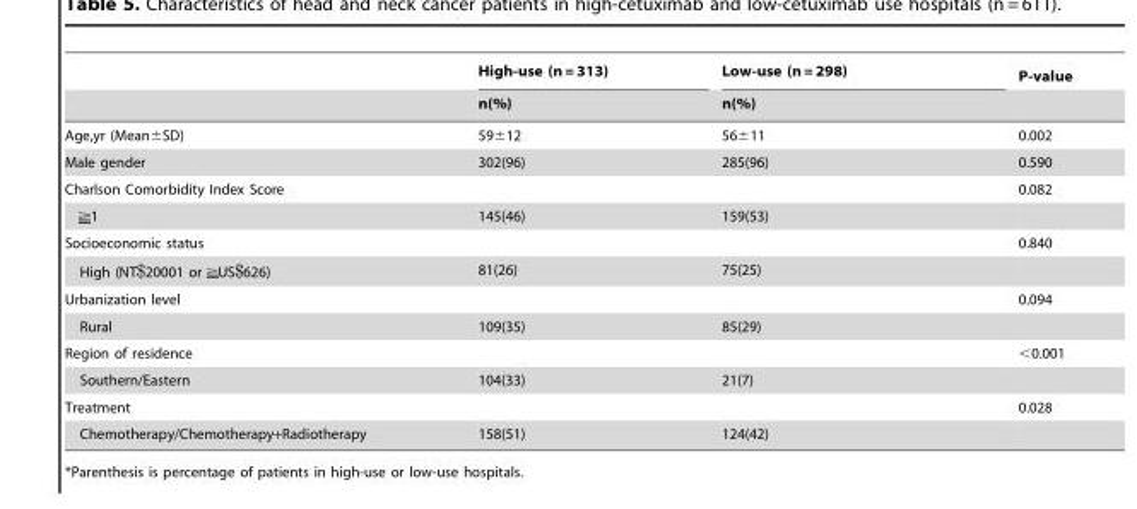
<table><thead><tr><td rowspan="2"></td><td rowspan="2">High-use (n = 313) n(%)</td><td rowspan="2">Low-use (n = 298) n(%)</td><td rowspan="2">P-value</td></tr><tr></tr></thead><tbody><tr><td>Age,yr (Mean±SD)</td><td>59±12</td><td>56±11</td><td>0.002</td></tr><tr><td>Male gender</td><td>302(96)</td><td>285(96)</td><td>0.590</td></tr><tr><td>Charlson Comorbidity Index Score</td><td></td><td></td><td>0.082</td></tr><tr><td>1</td><td>145(46)</td><td>159(53)</td><td></td></tr><tr><td>Socioeconomic status</td><td></td><td></td><td>0.840</td></tr><tr><td>High (NT$20001 or US$626)</td><td>81(26)</td><td>75(25)</td><td></td></tr><tr><td>Urbanization level</td><td></td><td></td><td>0.094</td></tr><tr><td>Rural</td><td>109(35)</td><td>85(29)</td><td></td></tr><tr><td>Region of residence</td><td></td><td></td><td>&lt;0.001</td></tr><tr><td>Southern/Eastern</td><td>104(33)</td><td>21(7)</td><td></td></tr><tr><td>Treatment</td><td></td><td></td><td>0.028</td></tr><tr><td>Chemotherapy/Chemotherapy+Radiotherapy</td><td>158(51)</td><td>124(42)</td><td></td></tr></tbody></table>